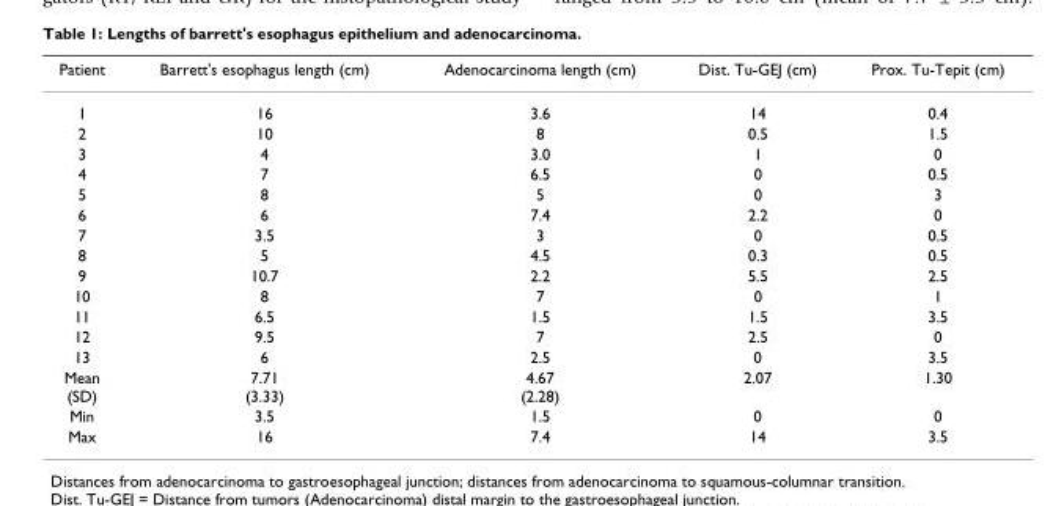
<table><thead><tr><td>Patient</td><td>Barrett&#x27;s esophagus length (cm)</td><td>Adenocarcinoma length (cm)</td><td>Dist. Tu-GEJ (cm)</td><td>Prox. Tu-Tepit (cm)</td></tr></thead><tbody><tr><td>1</td><td>16</td><td>3.6</td><td>14</td><td>0.4</td></tr><tr><td>2</td><td>10</td><td>8</td><td>0.5</td><td>1.5</td></tr><tr><td>3</td><td>4</td><td>3.0</td><td>1</td><td>0</td></tr><tr><td>4</td><td>7</td><td>6.5</td><td>0</td><td>0.5</td></tr><tr><td>5</td><td>8</td><td>5</td><td>0</td><td>3</td></tr><tr><td>6</td><td>6</td><td>7.4</td><td>2.2</td><td>0</td></tr><tr><td>7</td><td>3.5</td><td>3</td><td>0</td><td>0.5</td></tr><tr><td>8</td><td>5</td><td>4.5</td><td>0.3</td><td>0.5</td></tr><tr><td>9</td><td>10.7</td><td>2.2</td><td>5.5</td><td>2.5</td></tr><tr><td>10</td><td>8</td><td>7</td><td>0</td><td>1</td></tr><tr><td>11</td><td>6.5</td><td>1.5</td><td>1.5</td><td>3.5</td></tr><tr><td>12</td><td>9.5</td><td>7</td><td>2.5</td><td>0</td></tr><tr><td>13</td><td>6</td><td>2.5</td><td>0</td><td>3.5</td></tr><tr><td>Mean (SD)</td><td>7.71 (3.33)</td><td>4.67 (2.28)</td><td>2.07</td><td>1.30</td></tr><tr><td>Min</td><td>3.5</td><td>1.5</td><td>0</td><td>0</td></tr><tr><td>Max</td><td>16</td><td>7.4</td><td>14</td><td>3.5</td></tr></tbody></table>